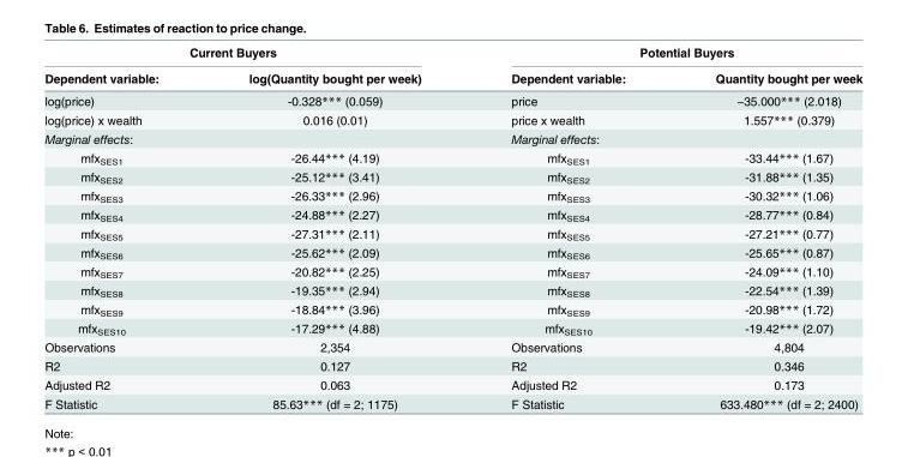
<table><thead><tr><td colspan="2">Current Buyers</td><td colspan="2">Potential Buyers</td></tr><tr><td>Dependent variable:</td><td>log(Quantity bought per week)</td><td>Dependent variable:</td><td>Quantity bought per week</td></tr></thead><tbody><tr><td>log(price)</td><td>-0.328*** (0.059)</td><td>price</td><td>−35.000*** (2.018)</td></tr><tr><td>log(price) x wealth</td><td>0.016 (0.01)</td><td>price x wealth</td><td>1.557*** (0.379)</td></tr><tr><td>Marginal effects:</td><td></td><td>Marginal effects:</td><td></td></tr><tr><td>mfx<sub>SES1</sub></td><td>-26.44*** (4.19)</td><td>mfx<sub>SES1</sub></td><td>-33.44*** (1.67)</td></tr><tr><td>mfx<sub>SES2</sub></td><td>-25.12*** (3.41)</td><td>mfx<sub>SES2</sub></td><td>-31.88*** (1.35)</td></tr><tr><td>mfx<sub>SES3</sub></td><td>-26.33*** (2.96)</td><td>mfx<sub>SES3</sub></td><td>-30.32*** (1.06)</td></tr><tr><td>mfx<sub>SES4</sub></td><td>-24.88*** (2.27)</td><td>mfx<sub>SES4</sub></td><td>-28.77*** (0.84)</td></tr><tr><td>mfx<sub>SES5</sub></td><td>-27.31*** (2.11)</td><td>mfx<sub>SES5</sub></td><td>-27.21*** (0.77)</td></tr><tr><td>mfx<sub>SES6</sub></td><td>-25.62*** (2.09)</td><td>mfx<sub>SES6</sub></td><td>-25.65*** (0.87)</td></tr><tr><td>mfx<sub>SES7</sub></td><td>-20.82*** (2.25)</td><td>mfx<sub>SES7</sub></td><td>-24.09*** (1.10)</td></tr><tr><td>mfx<sub>SES8</sub></td><td>-19.35*** (2.94)</td><td>mfx<sub>SES8</sub></td><td>-22.54*** (1.39)</td></tr><tr><td>mfx<sub>SES9</sub></td><td>-18.84*** (3.96)</td><td>mfx<sub>SES9</sub></td><td>-20.98*** (1.72)</td></tr><tr><td>mfx<sub>SES10</sub></td><td>-17.29*** (4.88)</td><td>mfx<sub>SES10</sub></td><td>-19.42*** (2.07)</td></tr><tr><td>Observations</td><td>2,354</td><td>Observations</td><td>4,804</td></tr><tr><td>R2</td><td>0.127</td><td>R2</td><td>0.346</td></tr><tr><td>Adjusted R2</td><td>0.063</td><td>Adjusted R2</td><td>0.173</td></tr><tr><td>F Statistic</td><td>85.63*** (df = 2; 1175)</td><td>F Statistic</td><td>633.480*** (df = 2; 2400)</td></tr></tbody></table>